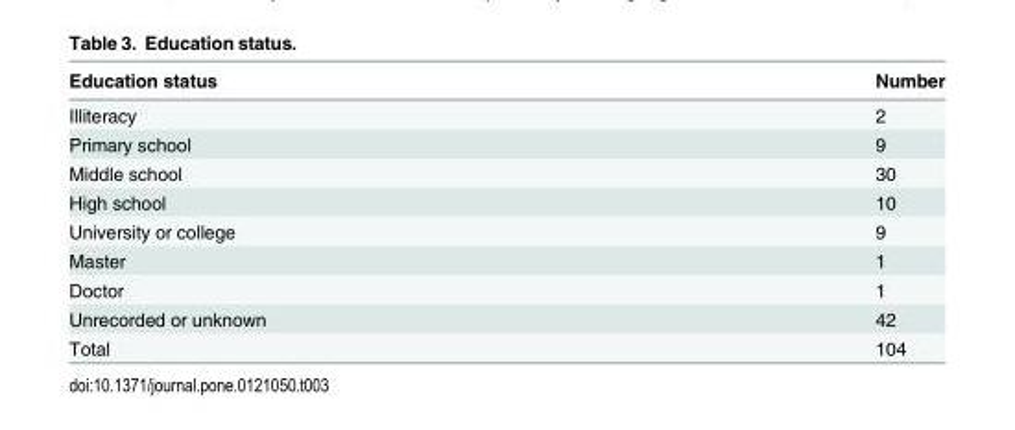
<table><thead><tr><td>Education status</td><td>Number</td></tr></thead><tbody><tr><td>Illiteracy</td><td>2</td></tr><tr><td>Primary school</td><td>9</td></tr><tr><td>Middle school</td><td>30</td></tr><tr><td>High school</td><td>10</td></tr><tr><td>University or college</td><td>9</td></tr><tr><td>Master</td><td>1</td></tr><tr><td>Doctor</td><td>1</td></tr><tr><td>Unrecorded or unknown</td><td>42</td></tr><tr><td>Total</td><td>104</td></tr></tbody></table>